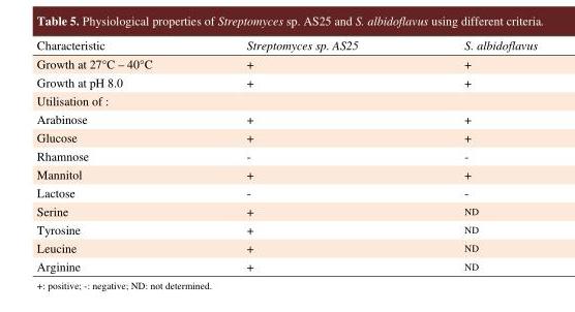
<table><thead><tr><td>Characteristic</td><td>Streptomyces sp. AS25</td><td>S. albidoflavus</td></tr></thead><tbody><tr><td>Growth at 27°C – 40°C</td><td>+</td><td>+</td></tr><tr><td>Growth at pH 8.0</td><td>+</td><td>+</td></tr><tr><td colspan="3">Utilisation of :</td></tr><tr><td>Arabinose</td><td>+</td><td>+</td></tr><tr><td>Glucose</td><td>+</td><td>+</td></tr><tr><td>Rhamnose</td><td>-</td><td>-</td></tr><tr><td>Mannitol</td><td>+</td><td>+</td></tr><tr><td>Lactose</td><td>-</td><td>-</td></tr><tr><td>Serine</td><td>+</td><td>ND</td></tr><tr><td>Tyrosine</td><td>+</td><td>ND</td></tr><tr><td>Leucine</td><td>+</td><td>ND</td></tr><tr><td>Arginine</td><td>+</td><td>ND</td></tr></tbody></table>